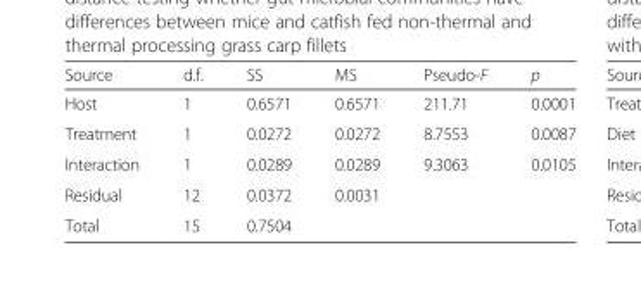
<table><thead><tr><td>Source</td><td>d.f.</td><td>SS</td><td>MS</td><td>Pseudo-F</td><td>p</td></tr></thead><tbody><tr><td>Host</td><td>1</td><td>0.6571</td><td>0.6571</td><td>211.71</td><td>0.0001</td></tr><tr><td>Treatment</td><td>1</td><td>0.0272</td><td>0.0272</td><td>8.7553</td><td>0.0087</td></tr><tr><td>Interaction</td><td>1</td><td>0.0289</td><td>0.0289</td><td>9.3063</td><td>0.0105</td></tr><tr><td>Residual</td><td>12</td><td>0.0372</td><td>0.0031</td><td></td><td></td></tr><tr><td>Total</td><td>15</td><td>0.7504</td><td></td><td></td><td></td></tr></tbody></table>